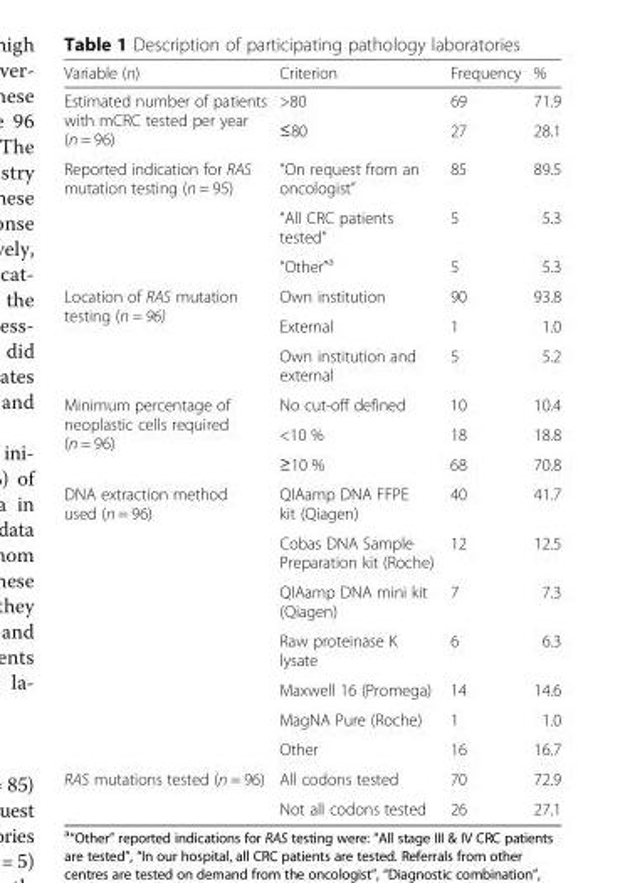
<table><thead><tr><td>Variable (n)</td><td>Criterion</td><td>Frequency</td><td>%</td></tr></thead><tbody><tr><td rowspan="2">Estimated number of patients with mCRC tested per year (n = 96)</td><td>&gt;80</td><td>69</td><td>71.9</td></tr><tr><td>≤80</td><td>27</td><td>28.1</td></tr><tr><td rowspan="3">Reported indication for RAS mutation testing (n = 95)</td><td>“On request from an oncologist”</td><td>85</td><td>89.5</td></tr><tr><td>“All CRC patients tested”</td><td>5</td><td>5.3</td></tr><tr><td>“Other”<sup>a</sup></td><td>5</td><td>5.3</td></tr><tr><td rowspan="3">Location of RAS mutation testing (n = 96)</td><td>Own institution</td><td>90</td><td>93.8</td></tr><tr><td>External</td><td>1</td><td>1.0</td></tr><tr><td>Own institution and external</td><td>5</td><td>5.2</td></tr><tr><td rowspan="3">Minimum percentage of neoplastic cells required (n = 96)</td><td>No cut-off defined</td><td>10</td><td>10.4</td></tr><tr><td>&lt;10 %</td><td>18</td><td>18.8</td></tr><tr><td>≥10 %</td><td>68</td><td>70.8</td></tr><tr><td rowspan="7">DNA extraction method used (n = 96)</td><td>QIAamp DNA FFPE kit (Qiagen)</td><td>40</td><td>41.7</td></tr><tr><td>Cobas DNA Sample Preparation kit (Roche)</td><td>12</td><td>12.5</td></tr><tr><td>QIAamp DNA mini kit (Qiagen)</td><td>7</td><td>7.3</td></tr><tr><td>Raw proteinase K lysate</td><td>6</td><td>6.3</td></tr><tr><td>Maxwell 16 (Promega)</td><td>14</td><td>14.6</td></tr><tr><td>MagNA Pure (Roche)</td><td>1</td><td>1.0</td></tr><tr><td>Other</td><td>16</td><td>16.7</td></tr><tr><td rowspan="2">RAS mutations tested (n = 96)</td><td>All codons tested</td><td>70</td><td>72.9</td></tr><tr><td>Not all codons tested</td><td>26</td><td>27.1</td></tr></tbody></table>